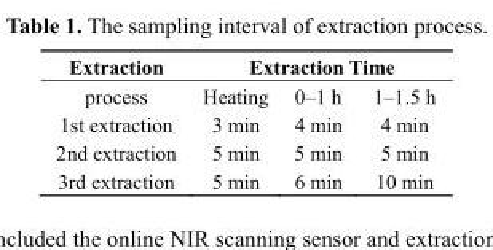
<table><thead><tr><td rowspan="2">Extraction process</td><td colspan="3">Extraction Time</td></tr><tr><td>Heating</td><td>0–1 h</td><td>1–1.5 h</td></tr></thead><tbody><tr><td>1st extraction</td><td>3 min</td><td>4 min</td><td>4 min</td></tr><tr><td>2nd extraction</td><td>5 min</td><td>5 min</td><td>5 min</td></tr><tr><td>3rd extraction</td><td>5 min</td><td>6 min</td><td>10 min</td></tr></tbody></table>